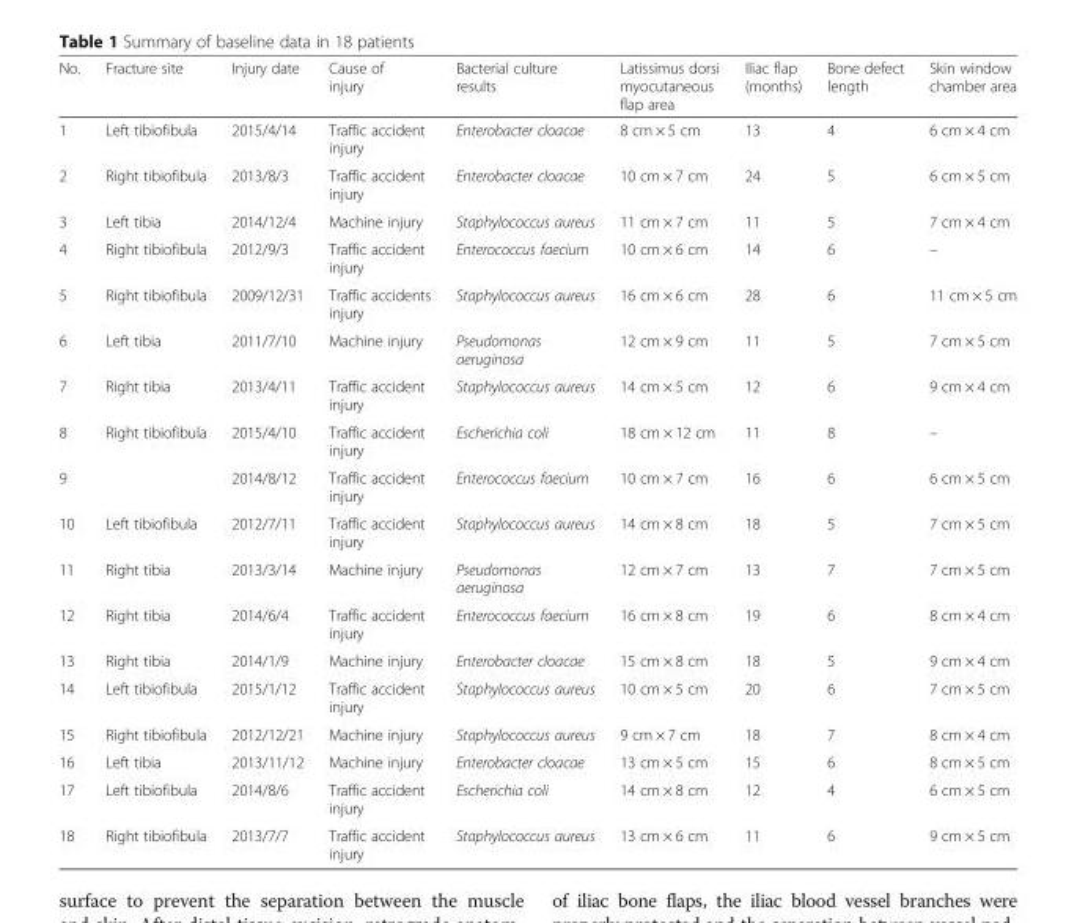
<table><thead><tr><td>No.</td><td>Fracture site</td><td>Injury date</td><td>Cause of injury</td><td>Bacterial culture results</td><td>Latissimus dorsi myocutaneous flap area</td><td>Iliac flap (months)</td><td>Bone defect length</td><td>Skin window chamber area</td></tr></thead><tbody><tr><td>1</td><td>Left tibiofibula</td><td>2015/4/14</td><td>Traffic accident injury</td><td>Enterobacter cloacae</td><td>8 cm × 5 cm</td><td>13</td><td>4</td><td>6 cm × 4 cm</td></tr><tr><td>2</td><td>Right tibiofibula</td><td>2013/8/3</td><td>Traffic accident injury</td><td>Enterobacter cloacae</td><td>10 cm × 7 cm</td><td>24</td><td>5</td><td>6 cm × 5 cm</td></tr><tr><td>3</td><td>Left tibia</td><td>2014/12/4</td><td>Machine injury</td><td>Staphylococcus aureus</td><td>11 cm × 7 cm</td><td>11</td><td>5</td><td>7 cm × 4 cm</td></tr><tr><td>4</td><td>Right tibiofibula</td><td>2012/9/3</td><td>Traffic accident injury</td><td>Enterococcus faecium</td><td>10 cm × 6 cm</td><td>14</td><td>6</td><td>–</td></tr><tr><td>5</td><td>Right tibiofibula</td><td>2009/12/31</td><td>Traffic accidents injury</td><td>Staphylococcus aureus</td><td>16 cm × 6 cm</td><td>28</td><td>6</td><td>11 cm × 5 cm</td></tr><tr><td>6</td><td>Left tibia</td><td>2011/7/10</td><td>Machine injury</td><td>Pseudomonas aeruginosa</td><td>12 cm × 9 cm</td><td>11</td><td>5</td><td>7 cm × 5 cm</td></tr><tr><td>7</td><td>Right tibia</td><td>2013/4/11</td><td>Traffic accident injury</td><td>Staphylococcus aureus</td><td>14 cm × 5 cm</td><td>12</td><td>6</td><td>9 cm × 4 cm</td></tr><tr><td>8</td><td>Right tibiofibula</td><td>2015/4/10</td><td>Traffic accident injury</td><td>Escherichia coli</td><td>18 cm × 12 cm</td><td>11</td><td>8</td><td>–</td></tr><tr><td>9</td><td></td><td>2014/8/12</td><td>Traffic accident injury</td><td>Enterococcus faecium</td><td>10 cm × 7 cm</td><td>16</td><td>6</td><td>6 cm × 5 cm</td></tr><tr><td>10</td><td>Left tibiofibula</td><td>2012/7/11</td><td>Traffic accident injury</td><td>Staphylococcus aureus</td><td>14 cm × 8 cm</td><td>18</td><td>5</td><td>7 cm × 5 cm</td></tr><tr><td>11</td><td>Right tibia</td><td>2013/3/14</td><td>Machine injury</td><td>Pseudomonas aeruginosa</td><td>12 cm × 7 cm</td><td>13</td><td>7</td><td>7 cm × 5 cm</td></tr><tr><td>12</td><td>Right tibia</td><td>2014/6/4</td><td>Traffic accident injury</td><td>Enterococcus faecium</td><td>16 cm × 8 cm</td><td>19</td><td>6</td><td>8 cm × 4 cm</td></tr><tr><td>13</td><td>Right tibia</td><td>2014/1/9</td><td>Machine injury</td><td>Enterobacter cloacae</td><td>15 cm × 8 cm</td><td>18</td><td>5</td><td>9 cm × 4 cm</td></tr><tr><td>14</td><td>Left tibiofibula</td><td>2015/1/12</td><td>Traffic accident injury</td><td>Staphylococcus aureus</td><td>10 cm × 5 cm</td><td>20</td><td>6</td><td>7 cm × 5 cm</td></tr><tr><td>15</td><td>Right tibiofibula</td><td>2012/12/21</td><td>Machine injury</td><td>Staphylococcus aureus</td><td>9 cm × 7 cm</td><td>18</td><td>7</td><td>8 cm × 4 cm</td></tr><tr><td>16</td><td>Left tibia</td><td>2013/11/12</td><td>Machine injury</td><td>Enterobacter cloacae</td><td>13 cm × 5 cm</td><td>15</td><td>6</td><td>8 cm × 5 cm</td></tr><tr><td>17</td><td>Left tibiofibula</td><td>2014/8/6</td><td>Traffic accident injury</td><td>Escherichia coli</td><td>14 cm × 8 cm</td><td>12</td><td>4</td><td>6 cm × 5 cm</td></tr><tr><td>18</td><td>Right tibiofibula</td><td>2013/7/7</td><td>Traffic accident injury</td><td>Staphylococcus aureus</td><td>13 cm × 6 cm</td><td>11</td><td>6</td><td>9 cm × 5 cm</td></tr></tbody></table>